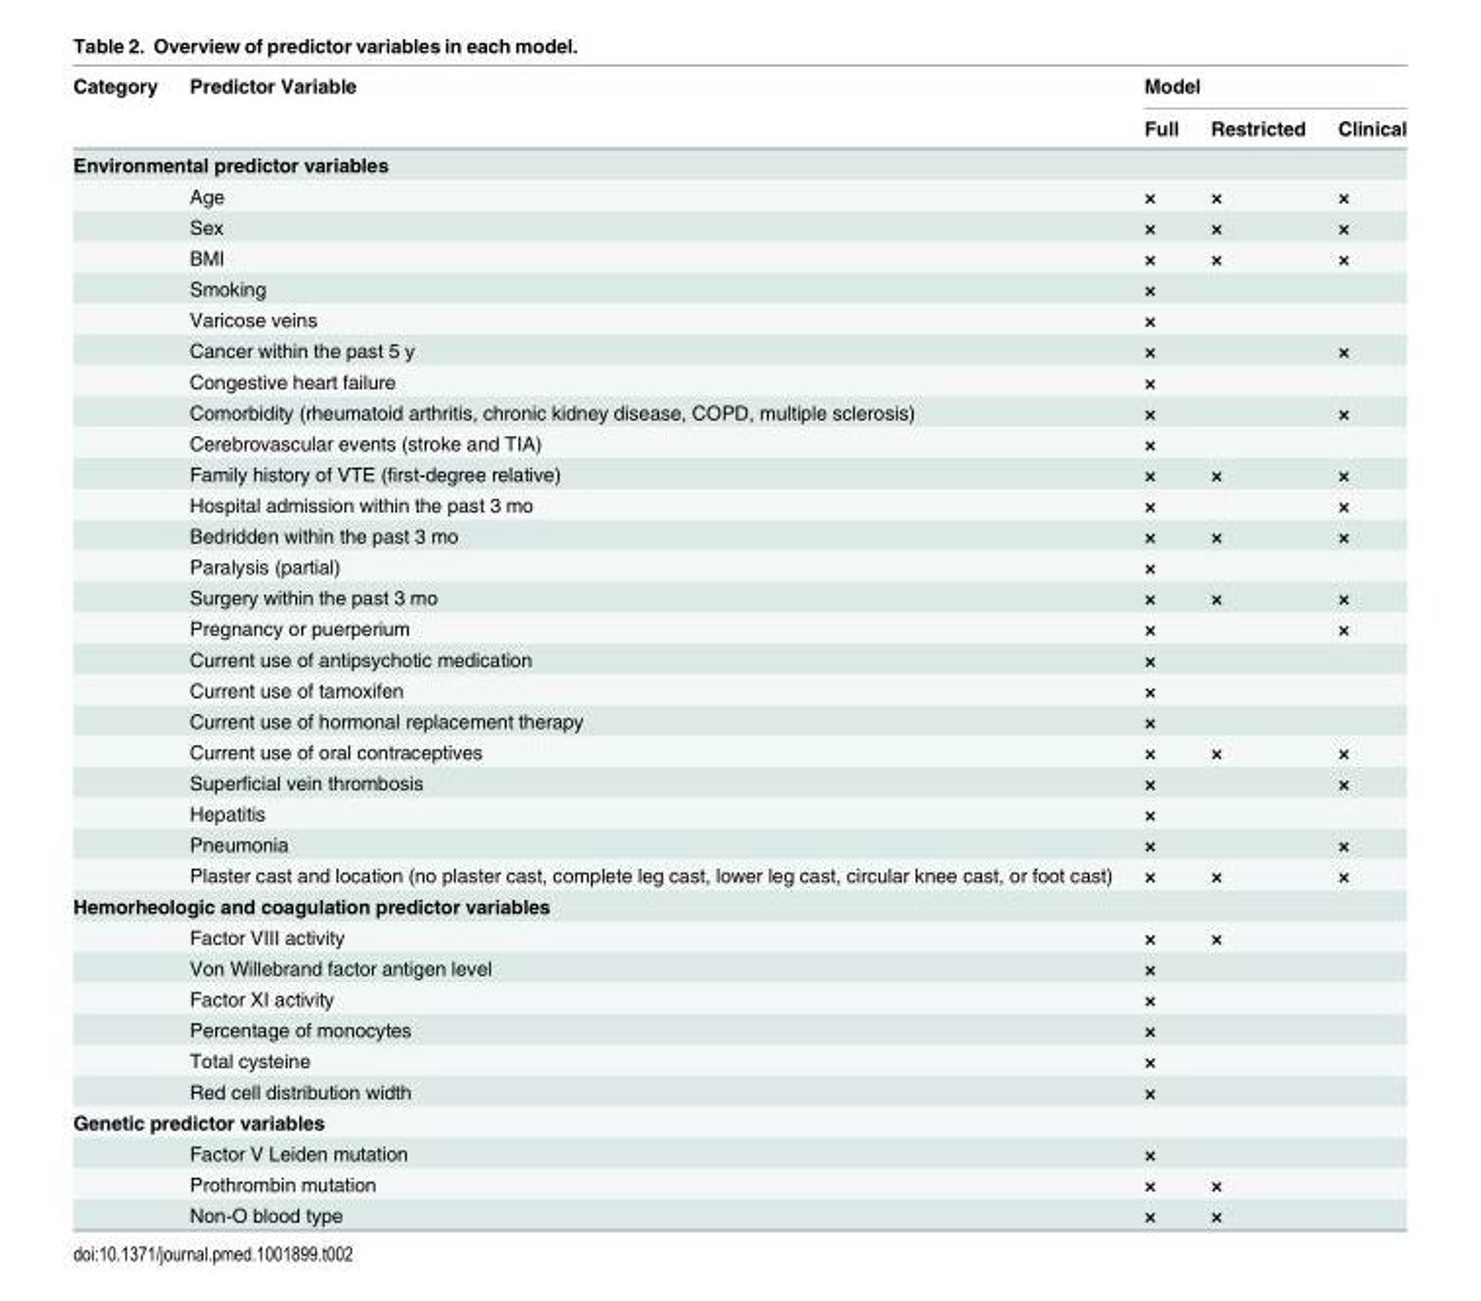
<table><thead><tr><td rowspan="2">Category</td><td rowspan="2">Predictor Variable</td><td colspan="3">Model</td></tr><tr><td>Full</td><td>Restricted</td><td>Clinical</td></tr></thead><tbody><tr><td colspan="5">Environmental predictor variables</td></tr><tr><td></td><td>Age</td><td>×</td><td>×</td><td>×</td></tr><tr><td></td><td>Sex</td><td>×</td><td>×</td><td>×</td></tr><tr><td></td><td>BMI</td><td>×</td><td>×</td><td>×</td></tr><tr><td></td><td>Smoking</td><td>×</td><td></td><td></td></tr><tr><td></td><td>Varicose veins</td><td>×</td><td></td><td></td></tr><tr><td></td><td>Cancer within the past 5 y</td><td>×</td><td></td><td>×</td></tr><tr><td></td><td>Congestive heart failure</td><td>×</td><td></td><td></td></tr><tr><td></td><td>Comorbidity (rheumatoid arthritis, chronic kidney disease, COPD, multiple sclerosis)</td><td>×</td><td></td><td>×</td></tr><tr><td></td><td>Cerebrovascular events (stroke and TIA)</td><td>×</td><td></td><td></td></tr><tr><td></td><td>Family history of VTE (first-degree relative)</td><td>×</td><td>×</td><td>×</td></tr><tr><td></td><td>Hospital admission within the past 3 mo</td><td>×</td><td></td><td>×</td></tr><tr><td></td><td>Bedridden within the past 3 mo</td><td>×</td><td>×</td><td>×</td></tr><tr><td></td><td>Paralysis (partial)</td><td>×</td><td></td><td></td></tr><tr><td></td><td>Surgery within the past 3 mo</td><td>×</td><td>×</td><td>×</td></tr><tr><td></td><td>Pregnancy or puerperium</td><td>×</td><td></td><td>×</td></tr><tr><td></td><td>Current use of antipsychotic medication</td><td>×</td><td></td><td></td></tr><tr><td></td><td>Current use of tamoxifen</td><td>×</td><td></td><td></td></tr><tr><td></td><td>Current use of hormonal replacement therapy</td><td>×</td><td></td><td></td></tr><tr><td></td><td>Current use of oral contraceptives</td><td>×</td><td>×</td><td>×</td></tr><tr><td></td><td>Superficial vein thrombosis</td><td>×</td><td></td><td>×</td></tr><tr><td></td><td>Hepatitis</td><td>×</td><td></td><td></td></tr><tr><td></td><td>Pneumonia</td><td>×</td><td></td><td>×</td></tr><tr><td></td><td>Plaster cast and location (no plaster cast, complete leg cast, lower leg cast, circular knee cast, or foot cast)</td><td>×</td><td>×</td><td>×</td></tr><tr><td colspan="5">Hemorheologic and coagulation predictor variables</td></tr><tr><td></td><td>Factor VIII activity</td><td>×</td><td>×</td><td></td></tr><tr><td></td><td>Von Willebrand factor antigen level</td><td>×</td><td></td><td></td></tr><tr><td></td><td>Factor XI activity</td><td>×</td><td></td><td></td></tr><tr><td></td><td>Percentage of monocytes</td><td>×</td><td></td><td></td></tr><tr><td></td><td>Total cysteine</td><td>×</td><td></td><td></td></tr><tr><td></td><td>Red cell distribution width</td><td>×</td><td></td><td></td></tr><tr><td colspan="5">Genetic predictor variables</td></tr><tr><td></td><td>Factor V Leiden mutation</td><td>×</td><td></td><td></td></tr><tr><td></td><td>Prothrombin mutation</td><td>×</td><td>×</td><td></td></tr><tr><td></td><td>Non-O blood type</td><td>×</td><td>×</td><td></td></tr></tbody></table>